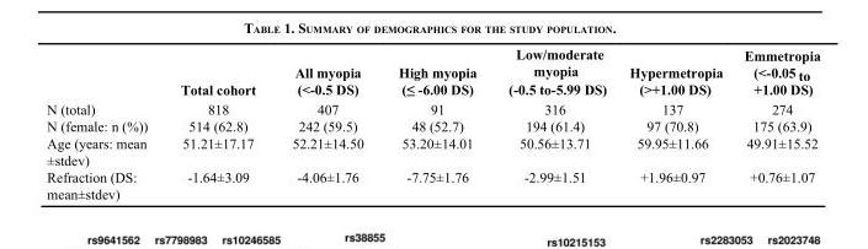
<table><thead><tr><td></td><td>Total cohort</td><td>All myopia (&lt;-0.5 DS)</td><td>High myopia (≤ -6.00 DS)</td><td>Low/moderate myopia (-0.5 to-5.99 DS)</td><td>Hypermetropia (&gt;+1.00 DS)</td><td>Emmetropia (&lt;-0.05 to +1.00 DS)</td></tr></thead><tbody><tr><td>N (total)</td><td>818</td><td>407</td><td>91</td><td>316</td><td>137</td><td>274</td></tr><tr><td>N (female: n (%))</td><td>514 (62.8)</td><td>242 (59.5)</td><td>48 (52.7)</td><td>194 (61.4)</td><td>97 (70.8)</td><td>175 (63.9)</td></tr><tr><td>Age (years: mean ±stdev)</td><td>51.21±17.17</td><td>52.21±14.50</td><td>53.20±14.01</td><td>50.56±13.71</td><td>59.95±11.66</td><td>49.91±15.52</td></tr><tr><td>Refraction (DS: mean±stdev)</td><td>-1.64±3.09</td><td>-4.06±1.76</td><td>-7.75±1.76</td><td>-2.99±1.51</td><td>+1.96±0.97</td><td>+0.76±1.07</td></tr></tbody></table>